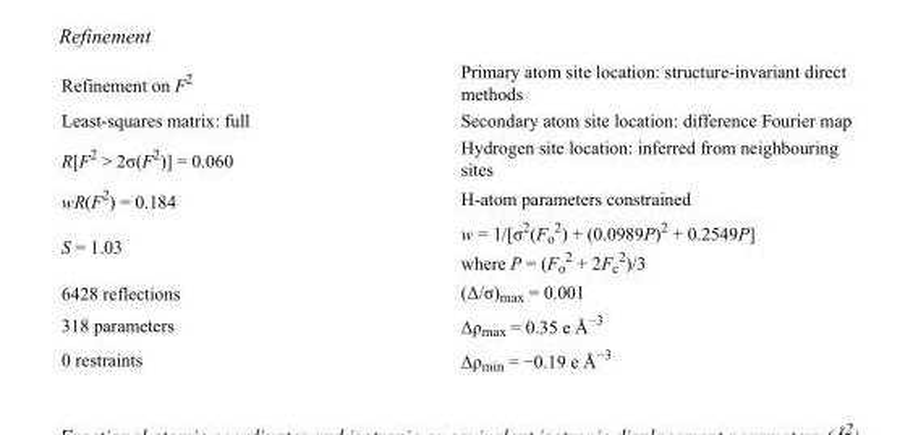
<table><tbody><tr><td>Refinement on F<sup>2</sup></td><td>Primary atom site location: structure-invariant direct methods</td></tr><tr><td>Least-squares matrix: full</td><td>Secondary atom site location: difference Fourier map</td></tr><tr><td>R[F<sup>2</sup> &gt; 2σ(F<sup>2</sup>)] = 0.060</td><td>Hydrogen site location: inferred from neighbouring sites</td></tr><tr><td>wR(F<sup>2</sup>) = 0.184</td><td>H-atom parameters constrained</td></tr><tr><td>S = 1.03</td><td>w = 1/[σ<sup>2</sup>(F<sub>o</sub> <sup>2</sup>) + (0.0989P)<sup>2</sup> + 0.2549P] where P = (F<sub>o</sub> <sup>2</sup> + 2F<sub>c</sub> <sup>2</sup>)/3</td></tr><tr><td>6428 reflections</td><td>(Δ/σ)<sub>max</sub> = 0.001</td></tr><tr><td>318 parameters</td><td>Δρ<sub>max</sub> = 0.35 e Å<sup>−3</sup></td></tr><tr><td>0 restraints</td><td>Δρ<sub>min</sub> = −0.19 e Å<sup>−3</sup></td></tr></tbody></table>